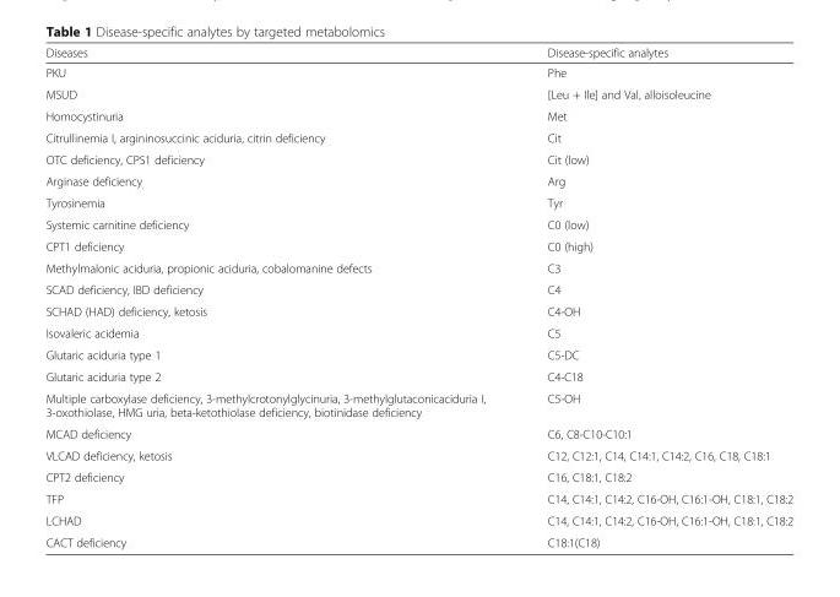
<table><thead><tr><td>Diseases</td><td>Disease-specific analytes</td></tr></thead><tbody><tr><td>PKU</td><td>Phe</td></tr><tr><td>MSUD</td><td>[Leu + Ile] and Val, alloisoleucine</td></tr><tr><td>Homocystinuria</td><td>Met</td></tr><tr><td>Citrullinemia I, argininosuccinic aciduria, citrin deficiency</td><td>Cit</td></tr><tr><td>OTC deficiency, CPS1 deficiency</td><td>Cit (low)</td></tr><tr><td>Arginase deficiency</td><td>Arg</td></tr><tr><td>Tyrosinemia</td><td>Tyr</td></tr><tr><td>Systemic carnitine deficiency</td><td>C0 (low)</td></tr><tr><td>CPT1 deficiency</td><td>C0 (high)</td></tr><tr><td>Methylmalonic aciduria, propionic aciduria, cobalomanine defects</td><td>C3</td></tr><tr><td>SCAD deficiency, IBD deficiency</td><td>C4</td></tr><tr><td>SCHAD (HAD) deficiency, ketosis</td><td>C4-OH</td></tr><tr><td>Isovaleric acidemia</td><td>C5</td></tr><tr><td>Glutaric aciduria type 1</td><td>C5-DC</td></tr><tr><td>Glutaric aciduria type 2</td><td>C4-C18</td></tr><tr><td>Multiple carboxylase deficiency, 3-methylcrotonylglycinuria, 3-methylglutaconicaciduria I, 3-oxothiolase, HMG uria, beta-ketothiolase deficiency, biotinidase deficiency</td><td>C5-OH</td></tr><tr><td>MCAD deficiency</td><td>C6, C8-C10-C10:1</td></tr><tr><td>VLCAD deficiency, ketosis</td><td>C12, C12:1, C14, C14:1, C14:2, C16, C18, C18:1</td></tr><tr><td>CPT2 deficiency</td><td>C16, C18:1, C18:2</td></tr><tr><td>TFP</td><td>C14, C14:1, C14:2, C16-OH, C16:1-OH, C18:1, C18:2</td></tr><tr><td>LCHAD</td><td>C14, C14:1, C14:2, C16-OH, C16:1-OH, C18:1, C18:2</td></tr><tr><td>CACT deficiency</td><td>C18:1(C18)</td></tr></tbody></table>